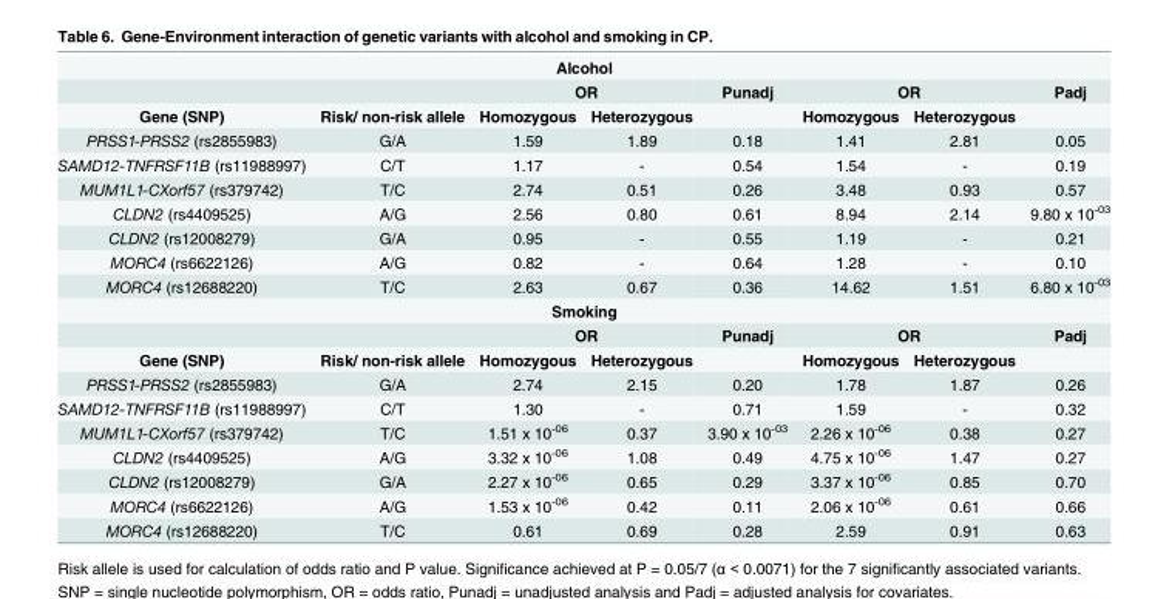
<table><tbody><tr><td colspan="8">Alcohol</td></tr><tr><td></td><td></td><td colspan="2">OR</td><td>Punadj</td><td colspan="2">OR</td><td>Padj</td></tr><tr><td>Gene (SNP)</td><td>Risk/ non-risk allele</td><td>Homozygous</td><td>Heterozygous</td><td></td><td>Homozygous</td><td>Heterozygous</td><td></td></tr><tr><td>PRSS1-PRSS2 (rs2855983)</td><td>G/A</td><td>1.59</td><td>1.89</td><td>0.18</td><td>1.41</td><td>2.81</td><td>0.05</td></tr><tr><td>SAMD12-TNFRSF11B (rs11988997)</td><td>C/T</td><td>1.17</td><td>-</td><td>0.54</td><td>1.54</td><td>-</td><td>0.19</td></tr><tr><td>MUM1L1-CXorf57 (rs379742)</td><td>T/C</td><td>2.74</td><td>0.51</td><td>0.26</td><td>3.48</td><td>0.93</td><td>0.57</td></tr><tr><td>CLDN2 (rs4409525)</td><td>A/G</td><td>2.56</td><td>0.80</td><td>0.61</td><td>8.94</td><td>2.14</td><td>9.80 x 10<sup>-03</sup></td></tr><tr><td>CLDN2 (rs12008279)</td><td>G/A</td><td>0.95</td><td>-</td><td>0.55</td><td>1.19</td><td>-</td><td>0.21</td></tr><tr><td>MORC4 (rs6622126)</td><td>A/G</td><td>0.82</td><td>-</td><td>0.64</td><td>1.28</td><td>-</td><td>0.10</td></tr><tr><td>MORC4 (rs12688220)</td><td>T/C</td><td>2.63</td><td>0.67</td><td>0.36</td><td>14.62</td><td>1.51</td><td>6.80 x 10<sup>-03</sup></td></tr><tr><td colspan="8">Smoking</td></tr><tr><td></td><td></td><td colspan="2">OR</td><td>Punadj</td><td colspan="2">OR</td><td>Padj</td></tr><tr><td>Gene (SNP)</td><td>Risk/ non-risk allele</td><td>Homozygous</td><td>Heterozygous</td><td></td><td>Homozygous</td><td>Heterozygous</td><td></td></tr><tr><td>PRSS1-PRSS2 (rs2855983)</td><td>G/A</td><td>2.74</td><td>2.15</td><td>0.20</td><td>1.78</td><td>1.87</td><td>0.26</td></tr><tr><td>SAMD12-TNFRSF11B (rs11988997)</td><td>C/T</td><td>1.30</td><td>-</td><td>0.71</td><td>1.59</td><td>-</td><td>0.32</td></tr><tr><td>MUM1L1-CXorf57 (rs379742)</td><td>T/C</td><td>1.51 x 10<sup>-06</sup></td><td>0.37</td><td>3.90 x 10<sup>-03</sup></td><td>2.26 x 10<sup>-06</sup></td><td>0.38</td><td>0.27</td></tr><tr><td>CLDN2 (rs4409525)</td><td>A/G</td><td>3.32 x 10<sup>-06</sup></td><td>1.08</td><td>0.49</td><td>4.75 x 10<sup>-06</sup></td><td>1.47</td><td>0.27</td></tr><tr><td>CLDN2 (rs12008279)</td><td>G/A</td><td>2.27 x 10<sup>-06</sup></td><td>0.65</td><td>0.29</td><td>3.37 x 10<sup>-06</sup></td><td>0.85</td><td>0.70</td></tr><tr><td>MORC4 (rs6622126)</td><td>A/G</td><td>1.53 x 10<sup>-06</sup></td><td>0.42</td><td>0.11</td><td>2.06 x 10<sup>-06</sup></td><td>0.61</td><td>0.66</td></tr><tr><td>MORC4 (rs12688220)</td><td>T/C</td><td>0.61</td><td>0.69</td><td>0.28</td><td>2.59</td><td>0.91</td><td>0.63</td></tr></tbody></table>